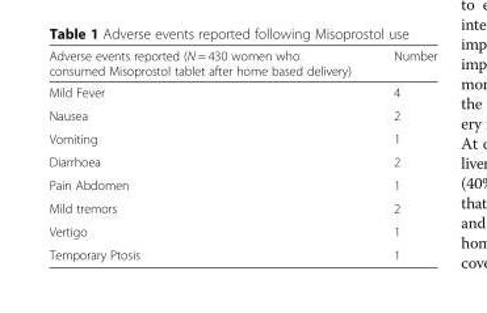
<table><thead><tr><td>Adverse events reported (N = 430 women who consumed Misoprostol tablet after home based delivery)</td><td>Number</td></tr></thead><tbody><tr><td>Mild Fever</td><td>4</td></tr><tr><td>Nausea</td><td>2</td></tr><tr><td>Vomiting</td><td>1</td></tr><tr><td>Diarrhoea</td><td>2</td></tr><tr><td>Pain Abdomen</td><td>1</td></tr><tr><td>Mild tremors</td><td>2</td></tr><tr><td>Vertigo</td><td>1</td></tr><tr><td>Temporary Ptosis</td><td>1</td></tr></tbody></table>